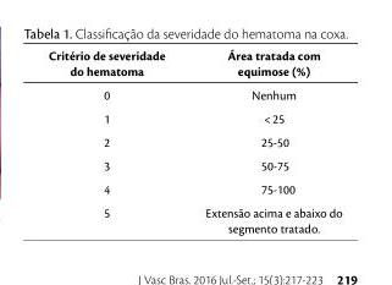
<table><thead><tr><td>Critério de severidade do hematoma</td><td>Área tratada com equimose (%)</td></tr></thead><tbody><tr><td>0</td><td>Nenhum</td></tr><tr><td>1</td><td>&lt; 25</td></tr><tr><td>2</td><td>25-50</td></tr><tr><td>3</td><td>50-75</td></tr><tr><td>4</td><td>75-100</td></tr><tr><td>5</td><td>Extensão acima e abaixo do segmento tratado.</td></tr></tbody></table>